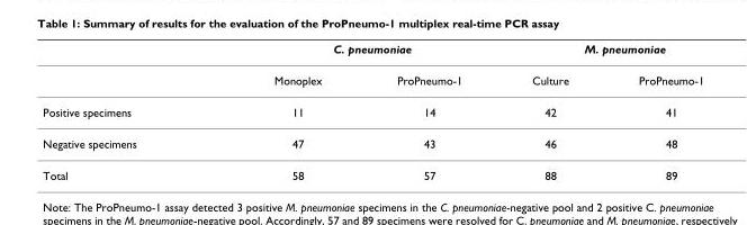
<table><thead><tr><td rowspan="2"></td><td colspan="2">C. pneumoniae</td><td colspan="2">M. pneumoniae</td></tr><tr><td>Monoplex</td><td>ProPneumo-1</td><td>Culture</td><td>ProPneumo-1</td></tr></thead><tbody><tr><td>Positive specimens</td><td>11</td><td>14</td><td>42</td><td>41</td></tr><tr><td>Negative specimens</td><td>47</td><td>43</td><td>46</td><td>48</td></tr><tr><td>Total</td><td>58</td><td>57</td><td>88</td><td>89</td></tr></tbody></table>